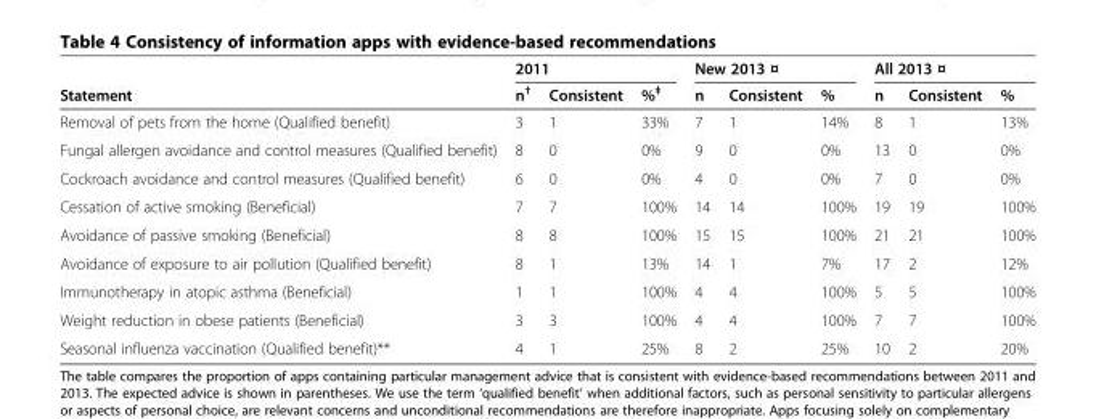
<table><thead><tr><td rowspan="2">Statement</td><td colspan="3">2011</td><td colspan="3">New 2013 ¤</td><td colspan="3">All 2013 ¤</td></tr><tr><td>n<sup>†</sup></td><td>Consistent</td><td>%<sup>‡</sup></td><td>n</td><td>Consistent</td><td>%</td><td>n</td><td>Consistent</td><td>%</td></tr></thead><tbody><tr><td>Removal of pets from the home (Qualified benefit)</td><td>3</td><td>1</td><td>33%</td><td>7</td><td>1</td><td>14%</td><td>8</td><td>1</td><td>13%</td></tr><tr><td>Fungal allergen avoidance and control measures (Qualified benefit)</td><td>8</td><td>0</td><td>0%</td><td>9</td><td>0</td><td>0%</td><td>13</td><td>0</td><td>0%</td></tr><tr><td>Cockroach avoidance and control measures (Qualified benefit)</td><td>6</td><td>0</td><td>0%</td><td>4</td><td>0</td><td>0%</td><td>7</td><td>0</td><td>0%</td></tr><tr><td>Cessation of active smoking (Beneficial)</td><td>7</td><td>7</td><td>100%</td><td>14</td><td>14</td><td>100%</td><td>19</td><td>19</td><td>100%</td></tr><tr><td>Avoidance of passive smoking (Beneficial)</td><td>8</td><td>8</td><td>100%</td><td>15</td><td>15</td><td>100%</td><td>21</td><td>21</td><td>100%</td></tr><tr><td>Avoidance of exposure to air pollution (Qualified benefit)</td><td>8</td><td>1</td><td>13%</td><td>14</td><td>1</td><td>7%</td><td>17</td><td>2</td><td>12%</td></tr><tr><td>Immunotherapy in atopic asthma (Beneficial)</td><td>1</td><td>1</td><td>100%</td><td>4</td><td>4</td><td>100%</td><td>5</td><td>5</td><td>100%</td></tr><tr><td>Weight reduction in obese patients (Beneficial)</td><td>3</td><td>3</td><td>100%</td><td>4</td><td>4</td><td>100%</td><td>7</td><td>7</td><td>100%</td></tr><tr><td>Seasonal influenza vaccination (Qualified benefit)**</td><td>4</td><td>1</td><td>25%</td><td>8</td><td>2</td><td>25%</td><td>10</td><td>2</td><td>20%</td></tr></tbody></table>